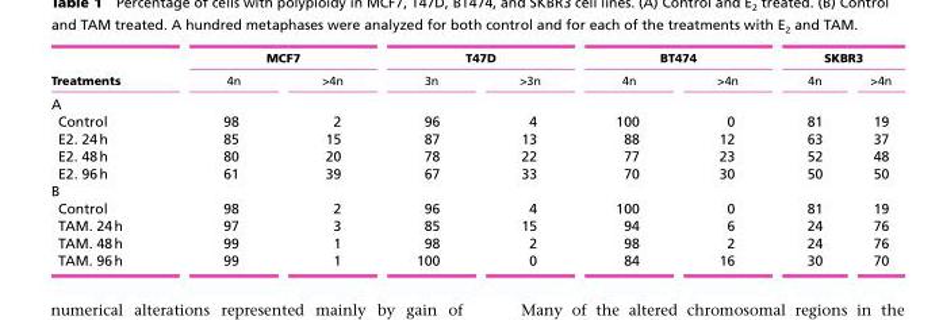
<table><thead><tr><td rowspan="2">Treatments</td><td colspan="2">MCF7</td><td colspan="2">T47D</td><td colspan="2">BT474</td><td colspan="2">SKBR3</td></tr><tr><td>4n</td><td>&gt;4n</td><td>3n</td><td>&gt;3n</td><td>4n</td><td>&gt;4n</td><td>4n</td><td>&gt;4n</td></tr></thead><tbody><tr><td colspan="9">A</td></tr><tr><td>Control</td><td>98</td><td>2</td><td>96</td><td>4</td><td>100</td><td>0</td><td>81</td><td>19</td></tr><tr><td>E2. 24 h</td><td>85</td><td>15</td><td>87</td><td>13</td><td>88</td><td>12</td><td>63</td><td>37</td></tr><tr><td>E2. 48 h</td><td>80</td><td>20</td><td>78</td><td>22</td><td>77</td><td>23</td><td>52</td><td>48</td></tr><tr><td>E2. 96 h</td><td>61</td><td>39</td><td>67</td><td>33</td><td>70</td><td>30</td><td>50</td><td>50</td></tr><tr><td colspan="9">B</td></tr><tr><td>Control</td><td>98</td><td>2</td><td>96</td><td>4</td><td>100</td><td>0</td><td>81</td><td>19</td></tr><tr><td>TAM. 24 h</td><td>97</td><td>3</td><td>85</td><td>15</td><td>94</td><td>6</td><td>24</td><td>76</td></tr><tr><td>TAM. 48 h</td><td>99</td><td>1</td><td>98</td><td>2</td><td>98</td><td>2</td><td>24</td><td>76</td></tr><tr><td>TAM. 96 h</td><td>99</td><td>1</td><td>100</td><td>0</td><td>84</td><td>16</td><td>30</td><td>70</td></tr></tbody></table>